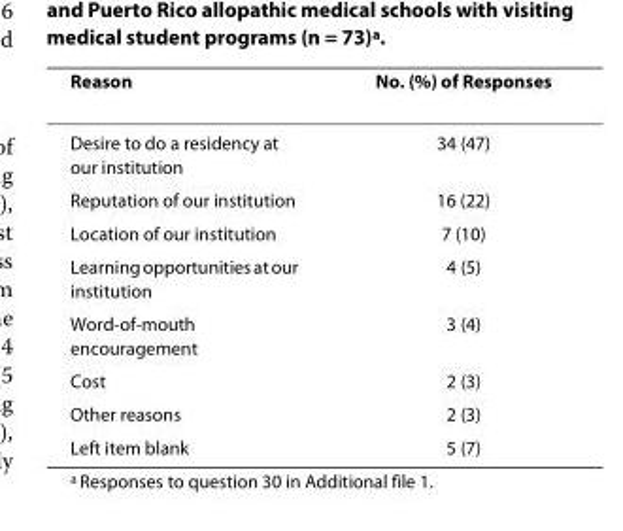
<table><thead><tr><td>Reason</td><td>No. (%) of Responses</td></tr></thead><tbody><tr><td>Desire to do a residency at our institution</td><td>34 (47)</td></tr><tr><td>Reputation of our institution</td><td>16 (22)</td></tr><tr><td>Location of our institution</td><td>7 (10)</td></tr><tr><td>Learning opportunities at our institution</td><td>4 (5)</td></tr><tr><td>Word-of-mouth encouragement</td><td>3 (4)</td></tr><tr><td>Cost</td><td>2 (3)</td></tr><tr><td>Other reasons</td><td>2 (3)</td></tr><tr><td>Left item blank</td><td>5 (7)</td></tr></tbody></table>